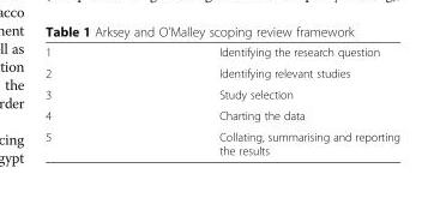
<table><tbody><tr><td>1</td><td>Identifying the research question</td></tr><tr><td>2</td><td>Identifying relevant studies</td></tr><tr><td>3</td><td>Study selection</td></tr><tr><td>4</td><td>Charting the data</td></tr><tr><td>5</td><td>Collating, summarising and reporting the results</td></tr></tbody></table>